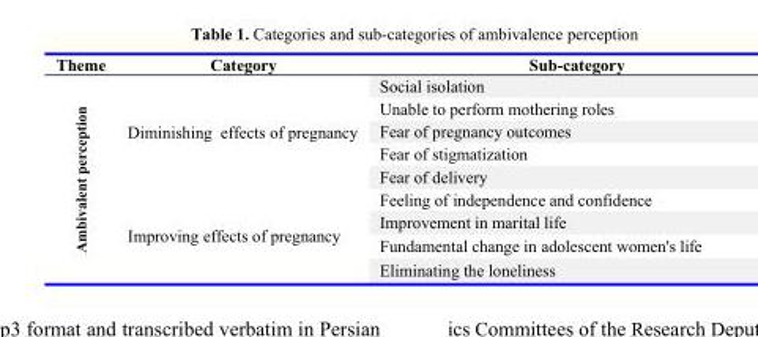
<table><thead><tr><td>Theme</td><td>Category</td><td>Sub-category</td></tr></thead><tbody><tr><td rowspan="9">Ambivalent perception</td><td rowspan="5">Diminishing effects of pregnancy</td><td>Social isolation</td></tr><tr><td>Unable to perform mothering roles</td></tr><tr><td>Fear of pregnancy outcomes</td></tr><tr><td>Fear of stigmatization</td></tr><tr><td>Fear of delivery</td></tr><tr><td rowspan="4">Improving effects of pregnancy</td><td>Feeling of independence and confidence</td></tr><tr><td>Improvement in marital life</td></tr><tr><td>Fundamental change in adolescent women&#x27;s life</td></tr><tr><td>Eliminating the loneliness</td></tr></tbody></table>